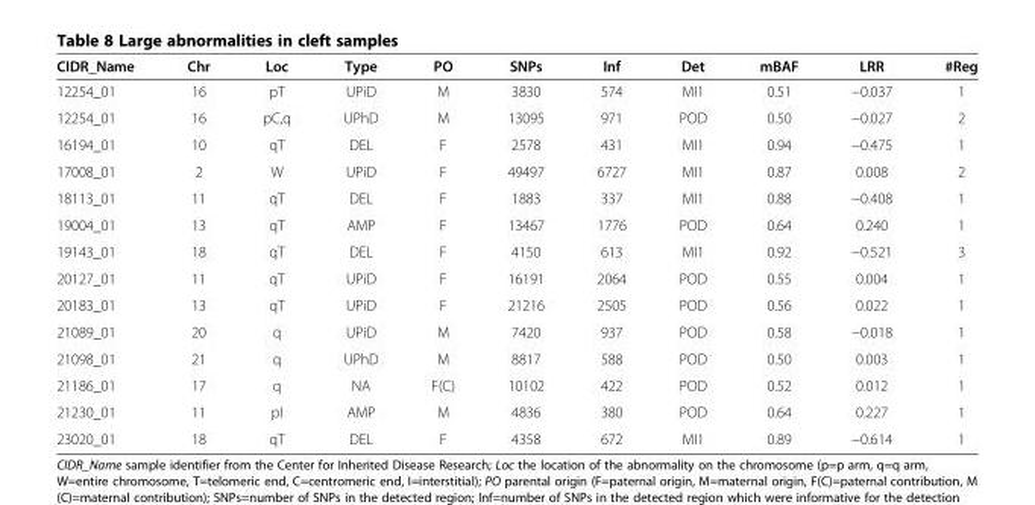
<table><thead><tr><td>CIDR_Name</td><td>Chr</td><td>Loc</td><td>Type</td><td>PO</td><td>SNPs</td><td>Inf</td><td>Det</td><td>mBAF</td><td>LRR</td><td>#Reg</td></tr></thead><tbody><tr><td>12254_01</td><td>16</td><td>pT</td><td>UPiD</td><td>M</td><td>3830</td><td>574</td><td>MI1</td><td>0.51</td><td>−0.037</td><td>1</td></tr><tr><td>12254_01</td><td>16</td><td>pC,q</td><td>UPhD</td><td>M</td><td>13095</td><td>971</td><td>POD</td><td>0.50</td><td>−0.027</td><td>2</td></tr><tr><td>16194_01</td><td>10</td><td>qT</td><td>DEL</td><td>F</td><td>2578</td><td>431</td><td>MI1</td><td>0.94</td><td>−0.475</td><td>1</td></tr><tr><td>17008_01</td><td>2</td><td>W</td><td>UPiD</td><td>F</td><td>49497</td><td>6727</td><td>MI1</td><td>0.87</td><td>0.008</td><td>2</td></tr><tr><td>18113_01</td><td>11</td><td>qT</td><td>DEL</td><td>F</td><td>1883</td><td>337</td><td>MI1</td><td>0.88</td><td>−0.408</td><td>1</td></tr><tr><td>19004_01</td><td>13</td><td>qT</td><td>AMP</td><td>F</td><td>13467</td><td>1776</td><td>POD</td><td>0.64</td><td>0.240</td><td>1</td></tr><tr><td>19143_01</td><td>18</td><td>qT</td><td>DEL</td><td>F</td><td>4150</td><td>613</td><td>MI1</td><td>0.92</td><td>−0.521</td><td>3</td></tr><tr><td>20127_01</td><td>11</td><td>qT</td><td>UPiD</td><td>F</td><td>16191</td><td>2064</td><td>POD</td><td>0.55</td><td>0.004</td><td>1</td></tr><tr><td>20183_01</td><td>13</td><td>qT</td><td>UPiD</td><td>F</td><td>21216</td><td>2505</td><td>POD</td><td>0.56</td><td>0.022</td><td>1</td></tr><tr><td>21089_01</td><td>20</td><td>q</td><td>UPiD</td><td>M</td><td>7420</td><td>937</td><td>POD</td><td>0.58</td><td>−0.018</td><td>1</td></tr><tr><td>21098_01</td><td>21</td><td>q</td><td>UPhD</td><td>M</td><td>8817</td><td>588</td><td>POD</td><td>0.50</td><td>0.003</td><td>1</td></tr><tr><td>21186_01</td><td>17</td><td>q</td><td>NA</td><td>F(C)</td><td>10102</td><td>422</td><td>POD</td><td>0.52</td><td>0.012</td><td>1</td></tr><tr><td>21230_01</td><td>11</td><td>pI</td><td>AMP</td><td>M</td><td>4836</td><td>380</td><td>POD</td><td>0.64</td><td>0.227</td><td>1</td></tr><tr><td>23020_01</td><td>18</td><td>qT</td><td>DEL</td><td>F</td><td>4358</td><td>672</td><td>MI1</td><td>0.89</td><td>−0.614</td><td>1</td></tr></tbody></table>